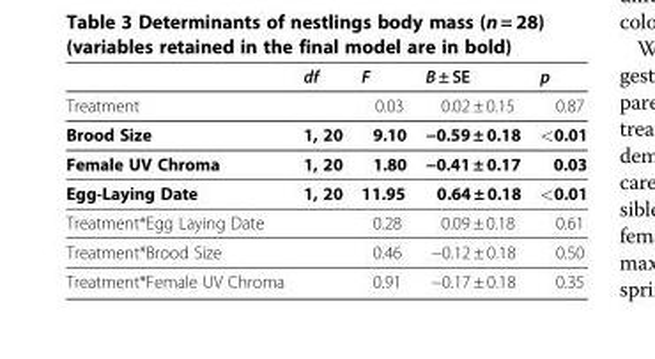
<table><thead><tr><td></td><td>df</td><td>F</td><td>B ± SE</td><td>p</td></tr></thead><tbody><tr><td>Treatment</td><td></td><td>0.03</td><td>0.02 ± 0.15</td><td>0.87</td></tr><tr><td>Brood Size</td><td>1, 20</td><td>9.10</td><td>−0.59 ± 0.18</td><td>&lt;0.01</td></tr><tr><td>Female UV Chroma</td><td>1, 20</td><td>1.80</td><td>−0.41 ± 0.17</td><td>0.03</td></tr><tr><td>Egg-Laying Date</td><td>1, 20</td><td>11.95</td><td>0.64 ± 0.18</td><td>&lt;0.01</td></tr><tr><td>Treatment*Egg Laying Date</td><td></td><td>0.28</td><td>0.09 ± 0.18</td><td>0.61</td></tr><tr><td>Treatment*Brood Size</td><td></td><td>0.46</td><td>−0.12 ± 0.18</td><td>0.50</td></tr><tr><td>Treatment*Female UV Chroma</td><td></td><td>0.91</td><td>−0.17 ± 0.18</td><td>0.35</td></tr></tbody></table>